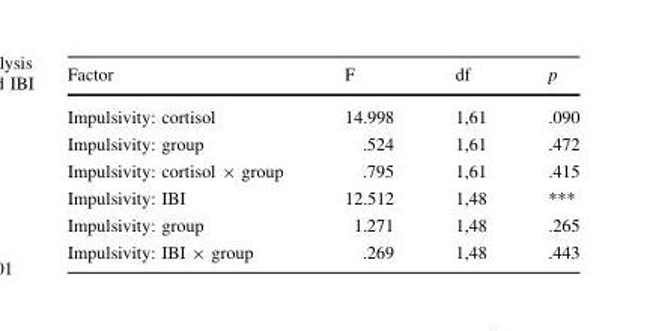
<table><thead><tr><td>Factor</td><td>F</td><td>df</td><td>p</td></tr></thead><tbody><tr><td>Impulsivity: cortisol</td><td>14.998</td><td>1,61</td><td>.090</td></tr><tr><td>Impulsivity: group</td><td>.524</td><td>1,61</td><td>.472</td></tr><tr><td>Impulsivity: cortisol × group</td><td>.795</td><td>1,61</td><td>.415</td></tr><tr><td>Impulsivity: IBI</td><td>12.512</td><td>1,48</td><td>***</td></tr><tr><td>Impulsivity: group</td><td>1.271</td><td>1,48</td><td>.265</td></tr><tr><td>Impulsivity: IBI × group</td><td>.269</td><td>1,48</td><td>.443</td></tr></tbody></table>